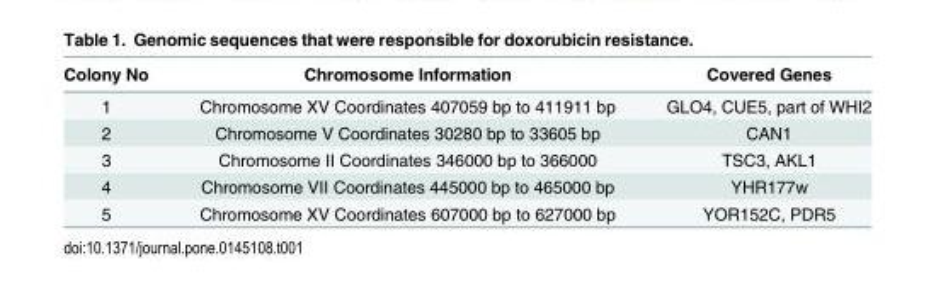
<table><thead><tr><td>Colony No</td><td>Chromosome Information</td><td>Covered Genes</td></tr></thead><tbody><tr><td>1</td><td>Chromosome XV Coordinates 407059 bp to 411911 bp</td><td>GLO4, CUE5, part of WHI2</td></tr><tr><td>2</td><td>Chromosome V Coordinates 30280 bp to 33605 bp</td><td>CAN1</td></tr><tr><td>3</td><td>Chromosome II Coordinates 346000 bp to 366000</td><td>TSC3, AKL1</td></tr><tr><td>4</td><td>Chromosome VII Coordinates 445000 bp to 465000 bp</td><td>YHR177w</td></tr><tr><td>5</td><td>Chromosome XV Coordinates 607000 bp to 627000 bp</td><td>YOR152C, PDR5</td></tr></tbody></table>